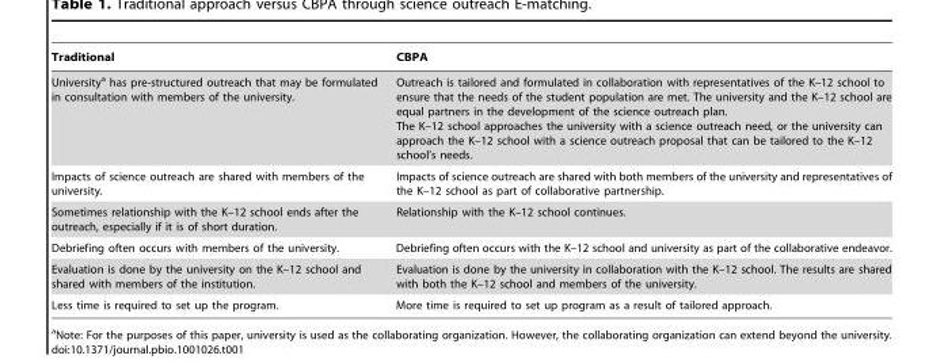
<table><thead><tr><td>Traditional</td><td>CBPA</td></tr></thead><tbody><tr><td>University<sup>a</sup> has pre-structured outreach that may be formulated in consultation with members of the university.</td><td>Outreach is tailored and formulated in collaboration with representatives of the K–12 school to ensure that the needs of the student population are met. The university and the K–12 school are equal partners in the development of the science outreach plan. The K–12 school approaches the university with a science outreach need, or the university can approach the K–12 school with a science outreach proposal that can be tailored to the K–12 school’s needs.</td></tr><tr><td>Impacts of science outreach are shared with members of the university.</td><td>Impacts of science outreach are shared with both members of the university and representatives of the K–12 school as part of collaborative partnership.</td></tr><tr><td>Sometimes relationship with the K–12 school ends after the outreach, especially if it is of short duration.</td><td>Relationship with the K–12 school continues.</td></tr><tr><td>Debriefing often occurs with members of the university.</td><td>Debriefing often occurs with the K–12 school and university as part of the collaborative endeavor.</td></tr><tr><td>Evaluation is done by the university on the K–12 school and shared with members of the institution.</td><td>Evaluation is done by the university in collaboration with the K–12 school. The results are shared with both the K–12 school and members of the university.</td></tr><tr><td>Less time is required to set up the program.</td><td>More time is required to set up program as a result of tailored approach.</td></tr></tbody></table>